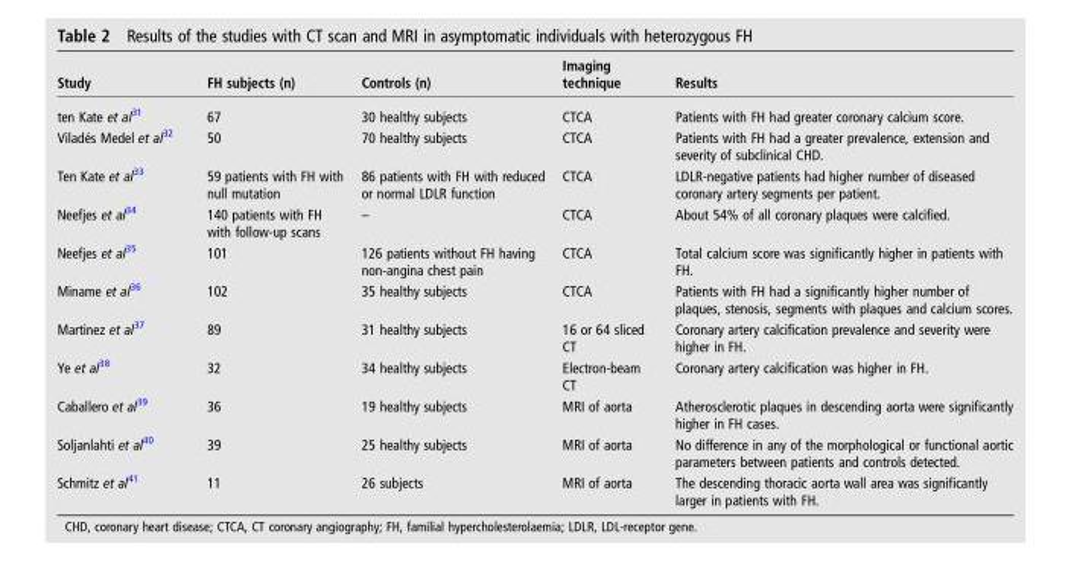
<table><thead><tr><td>Study</td><td>FH subjects (n)</td><td>Controls (n)</td><td>Imaging technique</td><td>Results</td></tr></thead><tbody><tr><td>ten Kate et al<sup>31</sup></td><td>67</td><td>30 healthy subjects</td><td>CTCA</td><td>Patients with FH had greater coronary calcium score.</td></tr><tr><td>Viladés Medel et al<sup>32</sup></td><td>50</td><td>70 healthy subjects</td><td>CTCA</td><td>Patients with FH had a greater prevalence, extension and severity of subclinical CHD.</td></tr><tr><td>Ten Kate et al<sup>33</sup></td><td>59 patients with FH with null mutation</td><td>86 patients with FH with reduced or normal LDLR function</td><td>CTCA</td><td>LDLR-negative patients had higher number of diseased coronary artery segments per patient.</td></tr><tr><td>Neefjes et al<sup>34</sup></td><td>140 patients with FH with follow-up scans</td><td>–</td><td>CTCA</td><td>About 54% of all coronary plaques were calcified.</td></tr><tr><td>Neefjes et al<sup>35</sup></td><td>101</td><td>126 patients without FH having non-angina chest pain</td><td>CTCA</td><td>Total calcium score was significantly higher in patients with FH.</td></tr><tr><td>Miname et al<sup>36</sup></td><td>102</td><td>35 healthy subjects</td><td>CTCA</td><td>Patients with FH had a significantly higher number of plaques, stenosis, segments with plaques and calcium scores.</td></tr><tr><td>Martinez et al<sup>37</sup></td><td>89</td><td>31 healthy subjects</td><td>16 or 64 sliced CT</td><td>Coronary artery calcification prevalence and severity were higher in FH.</td></tr><tr><td>Ye et al<sup>38</sup></td><td>32</td><td>34 healthy subjects</td><td>Electron-beam CT</td><td>Coronary artery calcification was higher in FH.</td></tr><tr><td>Caballero et al<sup>39</sup></td><td>36</td><td>19 healthy subjects</td><td>MRI of aorta</td><td>Atherosclerotic plaques in descending aorta were significantly higher in FH cases.</td></tr><tr><td>Soljanlahti et al<sup>40</sup></td><td>39</td><td>25 healthy subjects</td><td>MRI of aorta</td><td>No difference in any of the morphological or functional aortic parameters between patients and controls detected.</td></tr><tr><td>Schmitz et al<sup>41</sup></td><td>11</td><td>26 subjects</td><td>MRI of aorta</td><td>The descending thoracic aorta wall area was significantly larger in patients with FH.</td></tr></tbody></table>